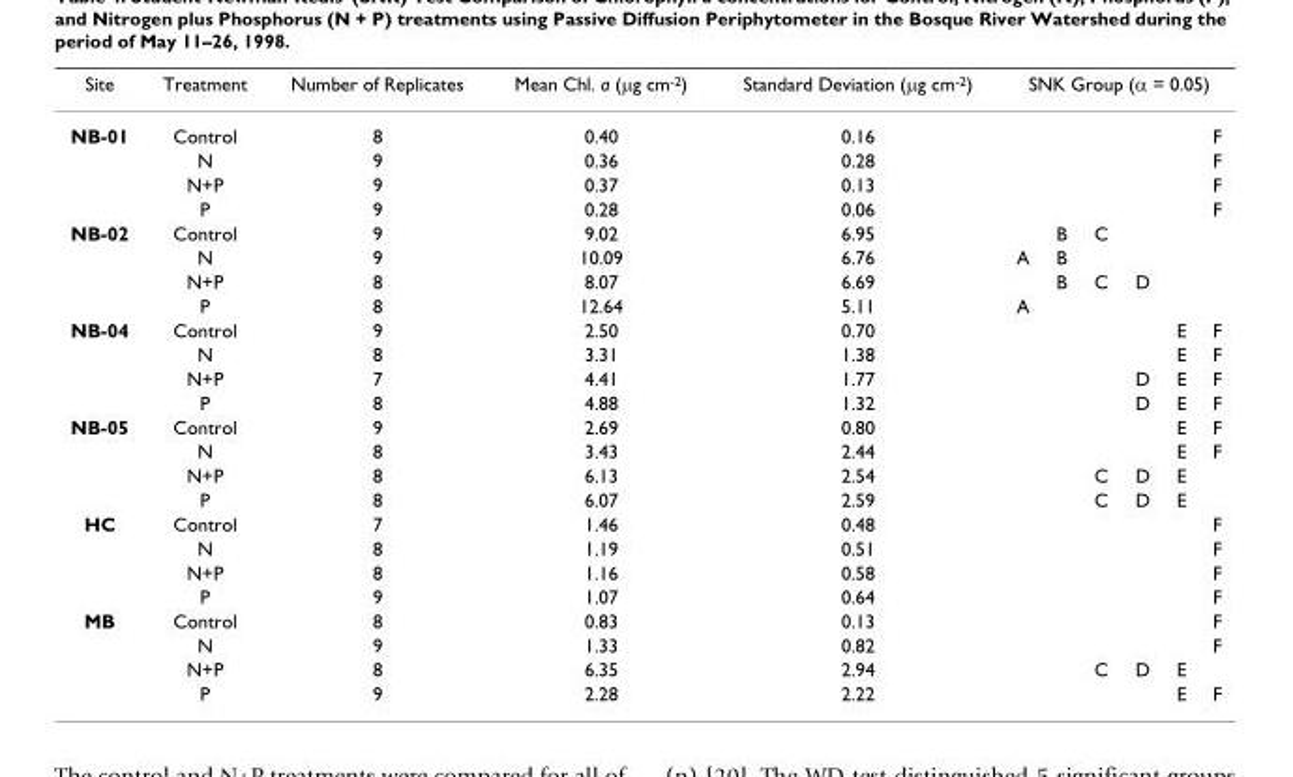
<table><thead><tr><td rowspan="2">Site NB-01</td><td rowspan="2">Treatment Control</td><td rowspan="2">Number of Replicates 8</td><td rowspan="2">Mean Chl. a (μg cm<sup>-2</sup>) 0.40</td><td rowspan="2">Standard Deviation (μg cm<sup>-2</sup>) 0.16</td><td colspan="6">SNK Group (α = 0.05)</td></tr><tr><td></td><td></td><td></td><td></td><td></td><td>F</td></tr></thead><tbody><tr><td></td><td>N</td><td>9</td><td>0.36</td><td>0.28</td><td></td><td></td><td></td><td></td><td></td><td>F</td></tr><tr><td></td><td>N+P</td><td>9</td><td>0.37</td><td>0.13</td><td></td><td></td><td></td><td></td><td></td><td>F</td></tr><tr><td></td><td>P</td><td>9</td><td>0.28</td><td>0.06</td><td></td><td></td><td></td><td></td><td></td><td>F</td></tr><tr><td rowspan="4">NB-02</td><td>Control</td><td>9</td><td>9.02</td><td>6.95</td><td></td><td>B</td><td>C</td><td></td><td></td><td></td></tr><tr><td>N</td><td>9</td><td>10.09</td><td>6.76</td><td>A</td><td>B</td><td></td><td></td><td></td><td></td></tr><tr><td>N+P</td><td>8</td><td>8.07</td><td>6.69</td><td></td><td>B</td><td>C</td><td>D</td><td></td><td></td></tr><tr><td>P</td><td>8</td><td>12.64</td><td>5.11</td><td>A</td><td></td><td></td><td></td><td></td><td></td></tr><tr><td rowspan="4">NB-04</td><td>Control</td><td>9</td><td>2.50</td><td>0.70</td><td></td><td></td><td></td><td></td><td>E</td><td>F</td></tr><tr><td>N</td><td>8</td><td>3.31</td><td>1.38</td><td></td><td></td><td></td><td></td><td>E</td><td>F</td></tr><tr><td>N+P</td><td>7</td><td>4.41</td><td>1.77</td><td></td><td></td><td></td><td>D</td><td>E</td><td>F</td></tr><tr><td>P</td><td>8</td><td>4.88</td><td>1.32</td><td></td><td></td><td></td><td>D</td><td>E</td><td>F</td></tr><tr><td rowspan="4">NB-05</td><td>Control</td><td>9</td><td>2.69</td><td>0.80</td><td></td><td></td><td></td><td></td><td>E</td><td>F</td></tr><tr><td>N</td><td>8</td><td>3.43</td><td>2.44</td><td></td><td></td><td></td><td></td><td>E</td><td>F</td></tr><tr><td>N+P</td><td>8</td><td>6.13</td><td>2.54</td><td></td><td></td><td>C</td><td>D</td><td>E</td><td></td></tr><tr><td>P</td><td>8</td><td>6.07</td><td>2.59</td><td></td><td></td><td>C</td><td>D</td><td>E</td><td></td></tr><tr><td rowspan="4">HC</td><td>Control</td><td>7</td><td>1.46</td><td>0.48</td><td></td><td></td><td></td><td></td><td></td><td>F</td></tr><tr><td>N</td><td>8</td><td>1.19</td><td>0.51</td><td></td><td></td><td></td><td></td><td></td><td>F</td></tr><tr><td>N+P</td><td>8</td><td>1.16</td><td>0.58</td><td></td><td></td><td></td><td></td><td></td><td>F</td></tr><tr><td>P</td><td>9</td><td>1.07</td><td>0.64</td><td></td><td></td><td></td><td></td><td></td><td>F</td></tr><tr><td rowspan="4">MB</td><td>Control</td><td>8</td><td>0.83</td><td>0.13</td><td></td><td></td><td></td><td></td><td></td><td>F</td></tr><tr><td>N</td><td>9</td><td>1.33</td><td>0.82</td><td></td><td></td><td></td><td></td><td></td><td>F</td></tr><tr><td>N+P</td><td>8</td><td>6.35</td><td>2.94</td><td></td><td></td><td>C</td><td>D</td><td>E</td><td></td></tr><tr><td>P</td><td>9</td><td>2.28</td><td>2.22</td><td></td><td></td><td></td><td></td><td>E</td><td>F</td></tr></tbody></table>